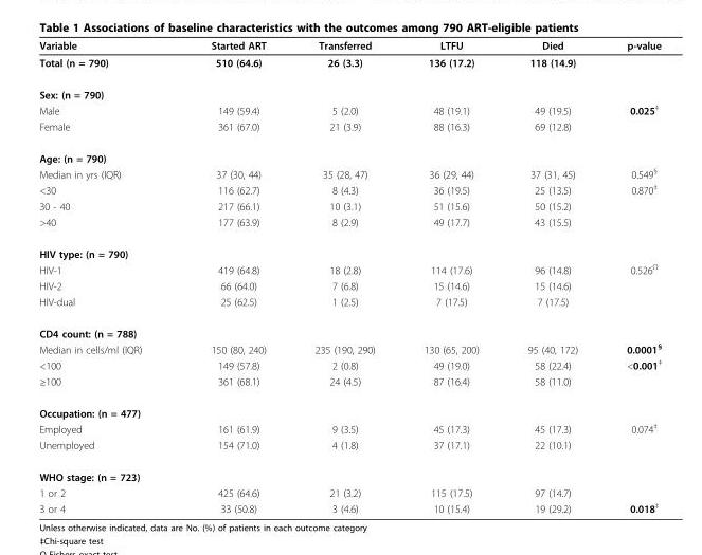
<table><thead><tr><td>Variable</td><td>Started ART</td><td>Transferred</td><td>LTFU</td><td>Died</td><td>p-value</td></tr></thead><tbody><tr><td>Total (n = 790)</td><td>510 (64.6)</td><td>26 (3.3)</td><td>136 (17.2)</td><td>118 (14.9)</td><td></td></tr><tr><td colspan="6">Sex: (n = 790)</td></tr><tr><td>Male</td><td>149 (59.4)</td><td>5 (2.0)</td><td>48 (19.1)</td><td>49 (19.5)</td><td>0.025<sup>‡</sup></td></tr><tr><td>Female</td><td>361 (67.0)</td><td>21 (3.9)</td><td>88 (16.3)</td><td>69 (12.8)</td><td></td></tr><tr><td colspan="6">Age: (n = 790)</td></tr><tr><td>Median in yrs (IQR)</td><td>37 (30, 44)</td><td>35 (28, 47)</td><td>36 (29, 44)</td><td>37 (31, 45)</td><td>0.549<sup>§</sup></td></tr><tr><td>&lt;30</td><td>116 (62.7)</td><td>8 (4.3)</td><td>36 (19.5)</td><td>25 (13.5)</td><td>0.870<sup>‡</sup></td></tr><tr><td>30 - 40</td><td>217 (66.1)</td><td>10 (3.1)</td><td>51 (15.6)</td><td>50 (15.2)</td><td></td></tr><tr><td>&gt;40</td><td>177 (63.9)</td><td>8 (2.9)</td><td>49 (17.7)</td><td>43 (15.5)</td><td></td></tr><tr><td colspan="6">HIV type: (n = 790)</td></tr><tr><td>HIV-1</td><td>419 (64.8)</td><td>18 (2.8)</td><td>114 (17.6)</td><td>96 (14.8)</td><td>0.526<sup>Ω</sup></td></tr><tr><td>HIV-2</td><td>66 (64.0)</td><td>7 (6.8)</td><td>15 (14.6)</td><td>15 (14.6)</td><td></td></tr><tr><td>HIV-dual</td><td>25 (62.5)</td><td>1 (2.5)</td><td>7 (17.5)</td><td>7 (17.5)</td><td></td></tr><tr><td colspan="6">CD4 count: (n = 788)</td></tr><tr><td>Median in cells/ml (IQR)</td><td>150 (80, 240)</td><td>235 (190, 290)</td><td>130 (65, 200)</td><td>95 (40, 172)</td><td>0.0001<sup>§</sup></td></tr><tr><td>&lt;100</td><td>149 (57.8)</td><td>2 (0.8)</td><td>49 (19.0)</td><td>58 (22.4)</td><td>&lt;0.001<sup>‡</sup></td></tr><tr><td>≥100</td><td>361 (68.1)</td><td>24 (4.5)</td><td>87 (16.4)</td><td>58 (11.0)</td><td></td></tr><tr><td colspan="6">Occupation: (n = 477)</td></tr><tr><td>Employed</td><td>161 (61.9)</td><td>9 (3.5)</td><td>45 (17.3)</td><td>45 (17.3)</td><td>0.074<sup>‡</sup></td></tr><tr><td>Unemployed</td><td>154 (71.0)</td><td>4 (1.8)</td><td>37 (17.1)</td><td>22 (10.1)</td><td></td></tr><tr><td colspan="6">WHO stage: (n = 723)</td></tr><tr><td>1 or 2</td><td>425 (64.6)</td><td>21 (3.2)</td><td>115 (17.5)</td><td>97 (14.7)</td><td></td></tr><tr><td>3 or 4</td><td>33 (50.8)</td><td>3 (4.6)</td><td>10 (15.4)</td><td>19 (29.2)</td><td>0.018<sup>‡</sup></td></tr></tbody></table>